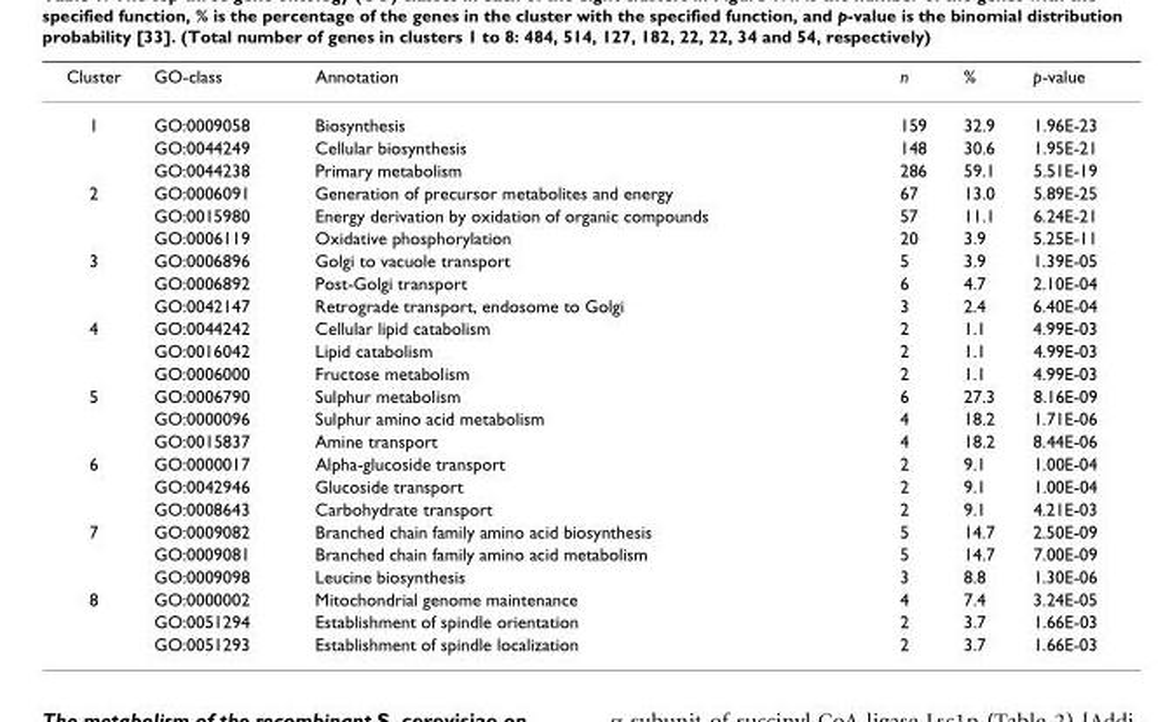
<table><thead><tr><td>Cluster</td><td>GO-class</td><td>Annotation</td><td>n</td><td>%</td><td>p-value</td></tr></thead><tbody><tr><td rowspan="3">1</td><td>GO:0009058</td><td>Biosynthesis</td><td>159</td><td>32.9</td><td>1.96E-23</td></tr><tr><td>GO:0044249</td><td>Cellular biosynthesis</td><td>148</td><td>30.6</td><td>1.95E-21</td></tr><tr><td>GO:0044238</td><td>Primary metabolism</td><td>286</td><td>59.1</td><td>5.51E-19</td></tr><tr><td rowspan="3">2</td><td>GO:0006091</td><td>Generation of precursor metabolites and energy</td><td>67</td><td>13.0</td><td>5.89E-25</td></tr><tr><td>GO:0015980</td><td>Energy derivation by oxidation of organic compounds</td><td>57</td><td>11.1</td><td>6.24E-21</td></tr><tr><td>GO:0006119</td><td>Oxidative phosphorylation</td><td>20</td><td>3.9</td><td>5.25E-11</td></tr><tr><td rowspan="3">3</td><td>GO:0006896</td><td>Golgi to vacuole transport</td><td>5</td><td>3.9</td><td>1.39E-05</td></tr><tr><td>GO:0006892</td><td>Post-Golgi transport</td><td>6</td><td>4.7</td><td>2.10E-04</td></tr><tr><td>GO:0042147</td><td>Retrograde transport, endosome to Golgi</td><td>3</td><td>2.4</td><td>6.40E-04</td></tr><tr><td rowspan="3">4</td><td>GO:0044242</td><td>Cellular lipid catabolism</td><td>2</td><td>1.1</td><td>4.99E-03</td></tr><tr><td>GO:0016042</td><td>Lipid catabolism</td><td>2</td><td>1.1</td><td>4.99E-03</td></tr><tr><td>GO:0006000</td><td>Fructose metabolism</td><td>2</td><td>1.1</td><td>4.99E-03</td></tr><tr><td rowspan="3">5</td><td>GO:0006790</td><td>Sulphur metabolism</td><td>6</td><td>27.3</td><td>8.16E-09</td></tr><tr><td>GO:0000096</td><td>Sulphur amino acid metabolism</td><td>4</td><td>18.2</td><td>1.71E-06</td></tr><tr><td>GO:0015837</td><td>Amine transport</td><td>4</td><td>18.2</td><td>8.44E-06</td></tr><tr><td rowspan="3">6</td><td>GO:0000017</td><td>Alpha-glucoside transport</td><td>2</td><td>9.1</td><td>1.00E-04</td></tr><tr><td>GO:0042946</td><td>Glucoside transport</td><td>2</td><td>9.1</td><td>1.00E-04</td></tr><tr><td>GO:0008643</td><td>Carbohydrate transport</td><td>2</td><td>9.1</td><td>4.21E-03</td></tr><tr><td rowspan="3">7</td><td>GO:0009082</td><td>Branched chain family amino acid biosynthesis</td><td>5</td><td>14.7</td><td>2.50E-09</td></tr><tr><td>GO:0009081</td><td>Branched chain family amino acid metabolism</td><td>5</td><td>14.7</td><td>7.00E-09</td></tr><tr><td>GO:0009098</td><td>Leucine biosynthesis</td><td>3</td><td>8.8</td><td>1.30E-06</td></tr><tr><td rowspan="3">8</td><td>GO:0000002</td><td>Mitochondrial genome maintenance</td><td>4</td><td>7.4</td><td>3.24E-05</td></tr><tr><td>GO:0051294</td><td>Establishment of spindle orientation</td><td>2</td><td>3.7</td><td>1.66E-03</td></tr><tr><td>GO:0051293</td><td>Establishment of spindle localization</td><td>2</td><td>3.7</td><td>1.66E-03</td></tr></tbody></table>